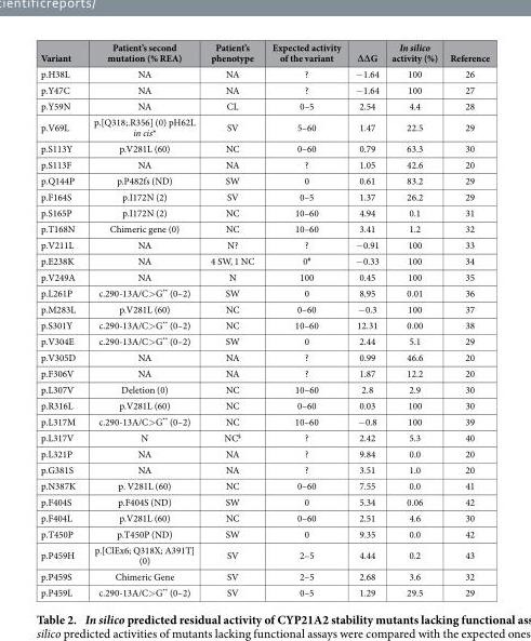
<table><thead><tr><td>Variant</td><td>Patient’s second mutation (% REA)</td><td>Patient’s phenotype</td><td>Expected activity of the variant</td><td>∆∆G</td><td>In silico activity (%)</td><td>Reference</td></tr></thead><tbody><tr><td>p.H38L</td><td>NA</td><td>NA</td><td>?</td><td>− 1.64</td><td>100</td><td>26</td></tr><tr><td>p.Y47C</td><td>NA</td><td>NA</td><td>?</td><td>− 1.64</td><td>100</td><td>27</td></tr><tr><td>p.Y59N</td><td>NA</td><td>CL</td><td>0–5</td><td>2.54</td><td>4.4</td><td>28</td></tr><tr><td>p.V69L</td><td>p.[Q318;.R356] (0) pH62L in cis*</td><td>SV</td><td>5–60</td><td>1.47</td><td>22.5</td><td>29</td></tr><tr><td>p.S113Y</td><td>p.V281L (60)</td><td>NC</td><td>0–60</td><td>0.79</td><td>63.3</td><td>30</td></tr><tr><td>p.S113F</td><td>NA</td><td>NA</td><td>?</td><td>1.05</td><td>42.6</td><td>20</td></tr><tr><td>p.Q144P</td><td>p.P482fs (ND)</td><td>SW</td><td>0</td><td>0.61</td><td>83.2</td><td>29</td></tr><tr><td>p.F164S</td><td>p.I172N (2)</td><td>SV</td><td>0–5</td><td>1.37</td><td>26.2</td><td>29</td></tr><tr><td>p.S165P</td><td>p.I172N (2)</td><td>NC</td><td>10–60</td><td>4.94</td><td>0.1</td><td>31</td></tr><tr><td>p.T168N</td><td>Chimeric gene (0)</td><td>NC</td><td>10–60</td><td>3.41</td><td>1.2</td><td>32</td></tr><tr><td>p.V211L</td><td>NA</td><td>N?</td><td>?</td><td>− 0.91</td><td>100</td><td>33</td></tr><tr><td>p.E238K</td><td>NA</td><td>4 SW, 1 NC</td><td>0<sup>#</sup></td><td>− 0.33</td><td>100</td><td>34</td></tr><tr><td>p.V249A</td><td>NA</td><td>N</td><td>100</td><td>0.45</td><td>100</td><td>35</td></tr><tr><td>p.L261P</td><td>c.290-13A/C&gt; G** (0–2)</td><td>SW</td><td>0</td><td>8.95</td><td>0.01</td><td>36</td></tr><tr><td>p.M283L</td><td>p.V281L (60)</td><td>NC</td><td>0–60</td><td>− 0.3</td><td>100</td><td>37</td></tr><tr><td>p.S301Y</td><td>c.290-13A/C&gt; G** (0–2)</td><td>NC</td><td>10–60</td><td>12.31</td><td>0.00</td><td>38</td></tr><tr><td>p.V304E</td><td>c.290-13A/C&gt; G** (0–2)</td><td>SW</td><td>0</td><td>2.44</td><td>5.1</td><td>29</td></tr><tr><td>p.V305D</td><td>NA</td><td>NA</td><td>?</td><td>0.99</td><td>46.6</td><td>20</td></tr><tr><td>p.F306V</td><td>NA</td><td>NA</td><td>?</td><td>1.87</td><td>12.2</td><td>20</td></tr><tr><td>p.L307V</td><td>Deletion (0)</td><td>NC</td><td>10–60</td><td>2.8</td><td>2.9</td><td>30</td></tr><tr><td>p.R316L</td><td>p.V281L (60)</td><td>NC</td><td>0–60</td><td>0.03</td><td>100</td><td>30</td></tr><tr><td>p.L317M</td><td>c.290-13A/C&gt; G** (0–2)</td><td>NC</td><td>10–60</td><td>− 0.8</td><td>100</td><td>39</td></tr><tr><td>p.L317V</td><td>N</td><td>NC<sup>§</sup></td><td>?</td><td>2.42</td><td>5.3</td><td>40</td></tr><tr><td>p.L321P</td><td>NA</td><td>NA</td><td>?</td><td>9.84</td><td>0.0</td><td>20</td></tr><tr><td>p.G381S</td><td>NA</td><td>NA</td><td>?</td><td>3.51</td><td>1.0</td><td>20</td></tr><tr><td>p.N387K</td><td>p. V281L (60)</td><td>NC</td><td>0–60</td><td>7.55</td><td>0.0</td><td>41</td></tr><tr><td>p.F404S</td><td>p.F404S (ND)</td><td>SW</td><td>0</td><td>5.34</td><td>0.06</td><td>42</td></tr><tr><td>p.F404L</td><td>p.V281L (60)</td><td>NC</td><td>0–60</td><td>2.51</td><td>4.6</td><td>30</td></tr><tr><td>p.T450P</td><td>p.T450P (ND)</td><td>SW</td><td>0</td><td>9.35</td><td>0.0</td><td>42</td></tr><tr><td>p.P459H</td><td>p.[ClEx6; Q318X; A391T] (0)</td><td>SV</td><td>2–5</td><td>4.44</td><td>0.2</td><td>43</td></tr><tr><td>p.P459S</td><td>Chimeric Gene</td><td>SV</td><td>2–5</td><td>2.68</td><td>3.6</td><td>32</td></tr><tr><td>p.P459L</td><td>c.290-13A/C&gt; G** (0–2)</td><td>SV</td><td>0–5</td><td>1.29</td><td>29.5</td><td>29</td></tr></tbody></table>